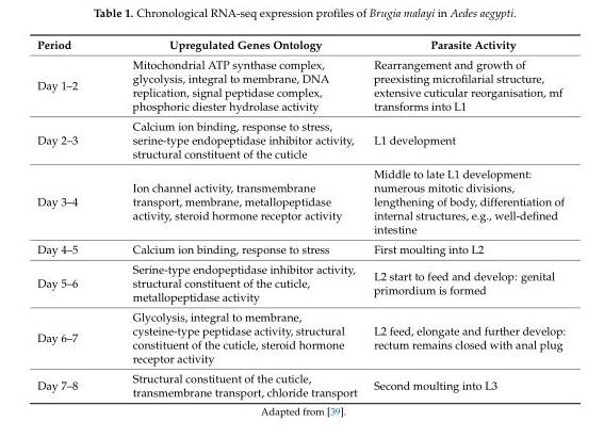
<table><thead><tr><td>Period</td><td>Upregulated Genes Ontology</td><td>Parasite Activity</td></tr></thead><tbody><tr><td>Day 1–2</td><td>Mitochondrial ATP synthase complex, glycolysis, integral to membrane, DNA replication, signal peptidase complex, phosphoric diester hydrolase activity</td><td>Rearrangement and growth of preexisting microfilarial structure, extensive cuticular reorganisation, mf transforms into L1</td></tr><tr><td>Day 2–3</td><td>Calcium ion binding, response to stress, serine-type endopeptidase inhibitor activity, structural constituent of the cuticle</td><td>L1 development</td></tr><tr><td>Day 3–4</td><td>Ion channel activity, transmembrane transport, membrane, metallopeptidase activity, steroid hormone receptor activity</td><td>Middle to late L1 development: numerous mitotic divisions, lengthening of body, differentiation of internal structures, e.g., well-defined intestine</td></tr><tr><td>Day 4–5</td><td>Calcium ion binding, response to stress</td><td>First moulting into L2</td></tr><tr><td>Day 5–6</td><td>Serine-type endopeptidase inhibitor activity, structural constituent of the cuticle, metallopeptidase activity</td><td>L2 start to feed and develop: genital primordium is formed</td></tr><tr><td>Day 6–7</td><td>Glycolysis, integral to membrane, cysteine-type peptidase activity, structural constituent of the cuticle, steroid hormone receptor activity</td><td>L2 feed, elongate and further develop: rectum remains closed with anal plug</td></tr><tr><td>Day 7–8</td><td>Structural constituent of the cuticle, transmembrane transport, chloride transport</td><td>Second moulting into L3</td></tr></tbody></table>